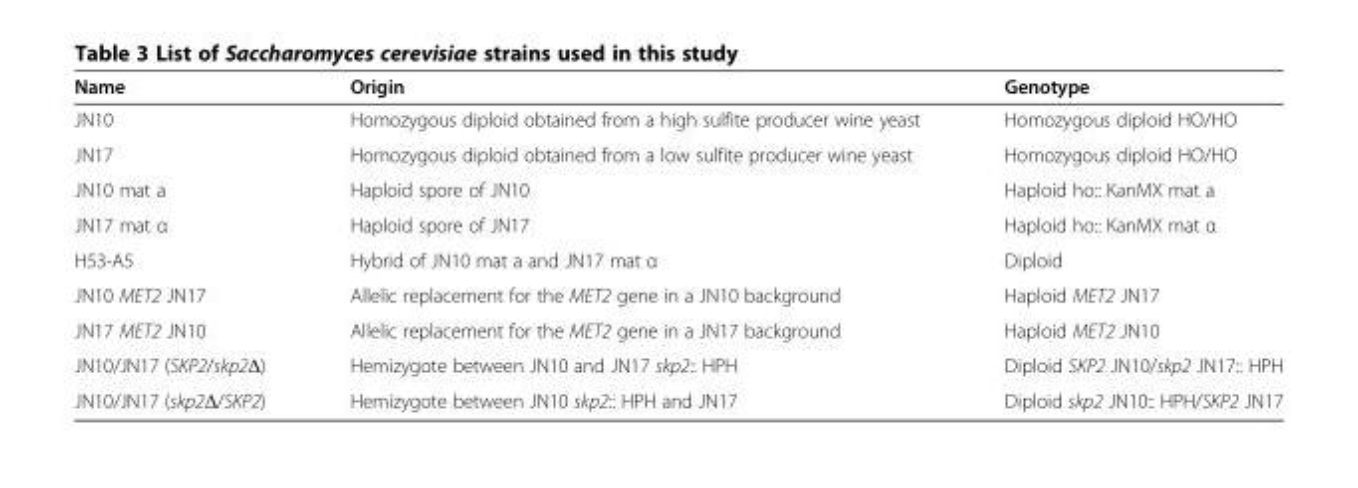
<table><thead><tr><td>Name</td><td>Origin</td><td>Genotype</td></tr></thead><tbody><tr><td>JN10</td><td>Homozygous diploid obtained from a high sulfite producer wine yeast</td><td>Homozygous diploid HO/HO</td></tr><tr><td>JN17</td><td>Homozygous diploid obtained from a low sulfite producer wine yeast</td><td>Homozygous diploid HO/HO</td></tr><tr><td>JN10 mat a</td><td>Haploid spore of JN10</td><td>Haploid ho:: KanMX mat a</td></tr><tr><td>JN17 mat α</td><td>Haploid spore of JN17</td><td>Haploid ho:: KanMX mat α</td></tr><tr><td>H53-A5</td><td>Hybrid of JN10 mat a and JN17 mat α</td><td>Diploid</td></tr><tr><td>JN10 MET2 JN17</td><td>Allelic replacement for the MET2 gene in a JN10 background</td><td>Haploid MET2 JN17</td></tr><tr><td>JN17 MET2 JN10</td><td>Allelic replacement for the MET2 gene in a JN17 background</td><td>Haploid MET2 JN10</td></tr><tr><td>JN10/JN17 (SKP2/skp2Δ)</td><td>Hemizygote between JN10 and JN17 skp2:: HPH</td><td>Diploid SKP2 JN10/skp2 JN17:: HPH</td></tr><tr><td>JN10/JN17 (skp2Δ/SKP2)</td><td>Hemizygote between JN10 skp2:: HPH and JN17</td><td>Diploid skp2 JN10:: HPH/SKP2 JN17</td></tr></tbody></table>